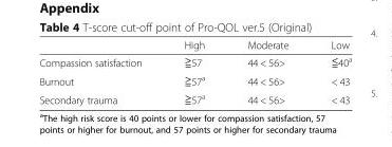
<table><thead><tr><td></td><td>High</td><td>Moderate</td><td>Low</td></tr></thead><tbody><tr><td>Compassion satisfaction</td><td>≧57</td><td>44 &lt; 56&gt;</td><td>≦40<sup>a</sup></td></tr><tr><td>Burnout</td><td>≧57<sup>a</sup></td><td>44 &lt; 56&gt;</td><td>&lt; 43</td></tr><tr><td>Secondary trauma</td><td>≧57<sup>a</sup></td><td>44 &lt; 56&gt;</td><td>&lt; 43</td></tr></tbody></table>